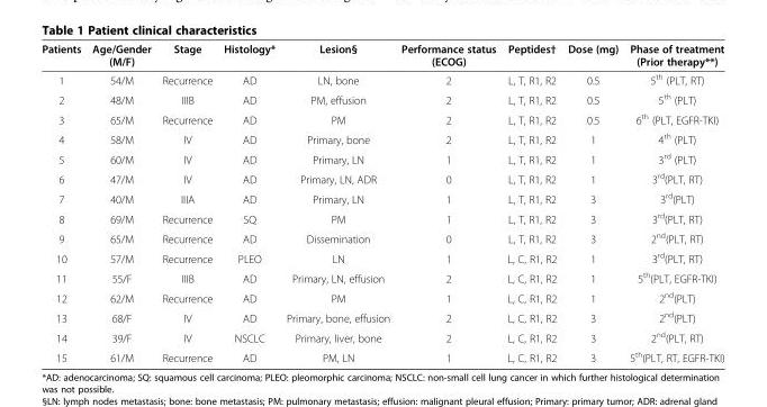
<table><thead><tr><td>Patients</td><td>Age/Gender (M/F)</td><td>Stage</td><td>Histology*</td><td>Lesion§</td><td>Performance status (ECOG)</td><td>Peptides†</td><td>Dose (mg)</td><td>Phase of treatment (Prior therapy**)</td></tr></thead><tbody><tr><td>1</td><td>54/M</td><td>Recurrence</td><td>AD</td><td>LN, bone</td><td>2</td><td>L, T, R1, R2</td><td>0.5</td><td>5<sup>th</sup> (PLT, RT)</td></tr><tr><td>2</td><td>48/M</td><td>IIIB</td><td>AD</td><td>PM, effusion</td><td>2</td><td>L, T, R1, R2</td><td>0.5</td><td>5<sup>th</sup> (PLT)</td></tr><tr><td>3</td><td>65/M</td><td>Recurrence</td><td>AD</td><td>PM</td><td>2</td><td>L, T, R1, R2</td><td>0.5</td><td>6<sup>th</sup> (PLT, EGFR-TKI)</td></tr><tr><td>4</td><td>58/M</td><td>IV</td><td>AD</td><td>Primary, bone</td><td>2</td><td>L, T, R1, R2</td><td>1</td><td>4<sup>th</sup> (PLT)</td></tr><tr><td>5</td><td>60/M</td><td>IV</td><td>AD</td><td>Primary, LN</td><td>1</td><td>L, T, R1, R2</td><td>1</td><td>3<sup>rd</sup> (PLT)</td></tr><tr><td>6</td><td>47/M</td><td>IV</td><td>AD</td><td>Primary, LN, ADR</td><td>0</td><td>L, T, R1, R2</td><td>1</td><td>3<sup>rd</sup>(PLT, RT)</td></tr><tr><td>7</td><td>40/M</td><td>IIIA</td><td>AD</td><td>Primary, LN</td><td>1</td><td>L, T, R1, R2</td><td>3</td><td>3<sup>rd</sup>(PLT)</td></tr><tr><td>8</td><td>69/M</td><td>Recurrence</td><td>SQ</td><td>PM</td><td>1</td><td>L, T, R1, R2</td><td>3</td><td>3<sup>rd</sup>(PLT, RT)</td></tr><tr><td>9</td><td>65/M</td><td>Recurrence</td><td>AD</td><td>Dissemination</td><td>0</td><td>L, T, R1, R2</td><td>3</td><td>2<sup>nd</sup>(PLT, RT)</td></tr><tr><td>10</td><td>57/M</td><td>Recurrence</td><td>PLEO</td><td>LN</td><td>1</td><td>L, C, R1, R2</td><td>1</td><td>3<sup>rd</sup>(PLT, RT)</td></tr><tr><td>11</td><td>55/F</td><td>IIIB</td><td>AD</td><td>Primary, LN, effusion</td><td>2</td><td>L, C, R1, R2</td><td>1</td><td>5<sup>th</sup>(PLT, EGFR-TKI)</td></tr><tr><td>12</td><td>62/M</td><td>Recurrence</td><td>AD</td><td>PM</td><td>1</td><td>L, C, R1, R2</td><td>1</td><td>2<sup>nd</sup>(PLT)</td></tr><tr><td>13</td><td>68/F</td><td>IV</td><td>AD</td><td>Primary, bone, effusion</td><td>2</td><td>L, C, R1, R2</td><td>3</td><td>2<sup>nd</sup>(PLT)</td></tr><tr><td>14</td><td>39/F</td><td>IV</td><td>NSCLC</td><td>Primary, liver, bone</td><td>2</td><td>L, C, R1, R2</td><td>3</td><td>2<sup>nd</sup>(PLT, RT)</td></tr><tr><td>15</td><td>61/M</td><td>Recurrence</td><td>AD</td><td>PM, LN</td><td>1</td><td>L, C, R1, R2</td><td>3</td><td>5<sup>th</sup>(PLT, RT, EGFR-TKI)</td></tr></tbody></table>